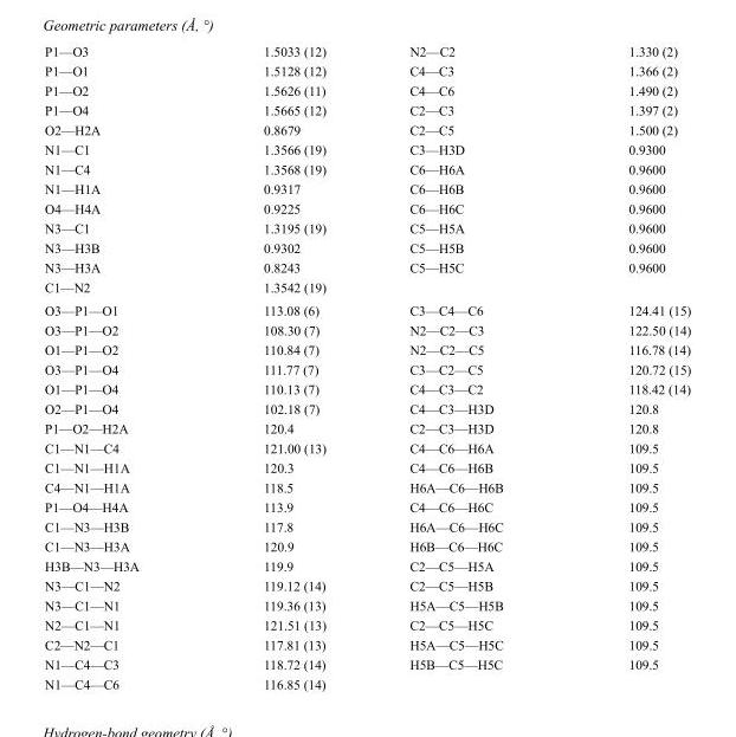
<table><tbody><tr><td>P1—O3</td><td>1.5033 (12)</td><td>N2—C2</td><td>1.330 (2)</td></tr><tr><td>P1—O1</td><td>1.5128 (12)</td><td>C4—C3</td><td>1.366 (2)</td></tr><tr><td>P1—O2</td><td>1.5626 (11)</td><td>C4—C6</td><td>1.490 (2)</td></tr><tr><td>P1—O4</td><td>1.5665 (12)</td><td>C2—C3</td><td>1.397 (2)</td></tr><tr><td>O2—H2A</td><td>0.8679</td><td>C2—C5</td><td>1.500 (2)</td></tr><tr><td>N1—C1</td><td>1.3566 (19)</td><td>C3—H3D</td><td>0.9300</td></tr><tr><td>N1—C4</td><td>1.3568 (19)</td><td>C6—H6A</td><td>0.9600</td></tr><tr><td>N1—H1A</td><td>0.9317</td><td>C6—H6B</td><td>0.9600</td></tr><tr><td>O4—H4A</td><td>0.9225</td><td>C6—H6C</td><td>0.9600</td></tr><tr><td>N3—C1</td><td>1.3195 (19)</td><td>C5—H5A</td><td>0.9600</td></tr><tr><td>N3—H3B</td><td>0.9302</td><td>C5—H5B</td><td>0.9600</td></tr><tr><td>N3—H3A</td><td>0.8243</td><td>C5—H5C</td><td>0.9600</td></tr><tr><td>C1—N2</td><td>1.3542 (19)</td><td></td><td></td></tr><tr><td>O3—P1—O1</td><td>113.08 (6)</td><td>C3—C4—C6</td><td>124.41 (15)</td></tr><tr><td>O3—P1—O2</td><td>108.30 (7)</td><td>N2—C2—C3</td><td>122.50 (14)</td></tr><tr><td>O1—P1—O2</td><td>110.84 (7)</td><td>N2—C2—C5</td><td>116.78 (14)</td></tr><tr><td>O3—P1—O4</td><td>111.77 (7)</td><td>C3—C2—C5</td><td>120.72 (15)</td></tr><tr><td>O1—P1—O4</td><td>110.13 (7)</td><td>C4—C3—C2</td><td>118.42 (14)</td></tr><tr><td>O2—P1—O4</td><td>102.18 (7)</td><td>C4—C3—H3D</td><td>120.8</td></tr><tr><td>P1—O2—H2A</td><td>120.4</td><td>C2—C3—H3D</td><td>120.8</td></tr><tr><td>C1—N1—C4</td><td>121.00 (13)</td><td>C4—C6—H6A</td><td>109.5</td></tr><tr><td>C1—N1—H1A</td><td>120.3</td><td>C4—C6—H6B</td><td>109.5</td></tr><tr><td>C4—N1—H1A</td><td>118.5</td><td>H6A—C6—H6B</td><td>109.5</td></tr><tr><td>P1—O4—H4A</td><td>113.9</td><td>C4—C6—H6C</td><td>109.5</td></tr><tr><td>C1—N3—H3B</td><td>117.8</td><td>H6A—C6—H6C</td><td>109.5</td></tr><tr><td>C1—N3—H3A</td><td>120.9</td><td>H6B—C6—H6C</td><td>109.5</td></tr><tr><td>H3B—N3—H3A</td><td>119.9</td><td>C2—C5—H5A</td><td>109.5</td></tr><tr><td>N3—C1—N2</td><td>119.12 (14)</td><td>C2—C5—H5B</td><td>109.5</td></tr><tr><td>N3—C1—N1</td><td>119.36 (13)</td><td>H5A—C5—H5B</td><td>109.5</td></tr><tr><td>N2—C1—N1</td><td>121.51 (13)</td><td>C2—C5—H5C</td><td>109.5</td></tr><tr><td>C2—N2—C1</td><td>117.81 (13)</td><td>H5A—C5—H5C</td><td>109.5</td></tr><tr><td>N1—C4—C3</td><td>118.72 (14)</td><td>H5B—C5—H5C</td><td>109.5</td></tr><tr><td>N1—C4—C6</td><td>116.85 (14)</td><td></td><td></td></tr></tbody></table>